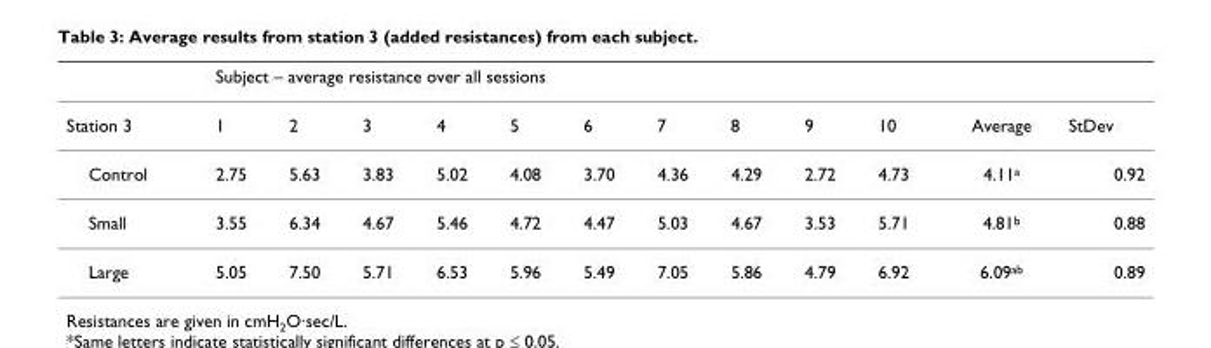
<table><thead><tr><td rowspan="2">Station 3</td><td colspan="10">Subject – average resistance over all sessions</td><td rowspan="2">Average</td><td rowspan="2">StDev</td></tr><tr><td>1</td><td>2</td><td>3</td><td>4</td><td>5</td><td>6</td><td>7</td><td>8</td><td>9</td><td>10</td></tr></thead><tbody><tr><td>Control</td><td>2.75</td><td>5.63</td><td>3.83</td><td>5.02</td><td>4.08</td><td>3.70</td><td>4.36</td><td>4.29</td><td>2.72</td><td>4.73</td><td>4.11<sup>a</sup></td><td>0.92</td></tr><tr><td>Small</td><td>3.55</td><td>6.34</td><td>4.67</td><td>5.46</td><td>4.72</td><td>4.47</td><td>5.03</td><td>4.67</td><td>3.53</td><td>5.71</td><td>4.81<sup>b</sup></td><td>0.88</td></tr><tr><td>Large</td><td>5.05</td><td>7.50</td><td>5.71</td><td>6.53</td><td>5.96</td><td>5.49</td><td>7.05</td><td>5.86</td><td>4.79</td><td>6.92</td><td>6.09<sup>ab</sup></td><td>0.89</td></tr></tbody></table>